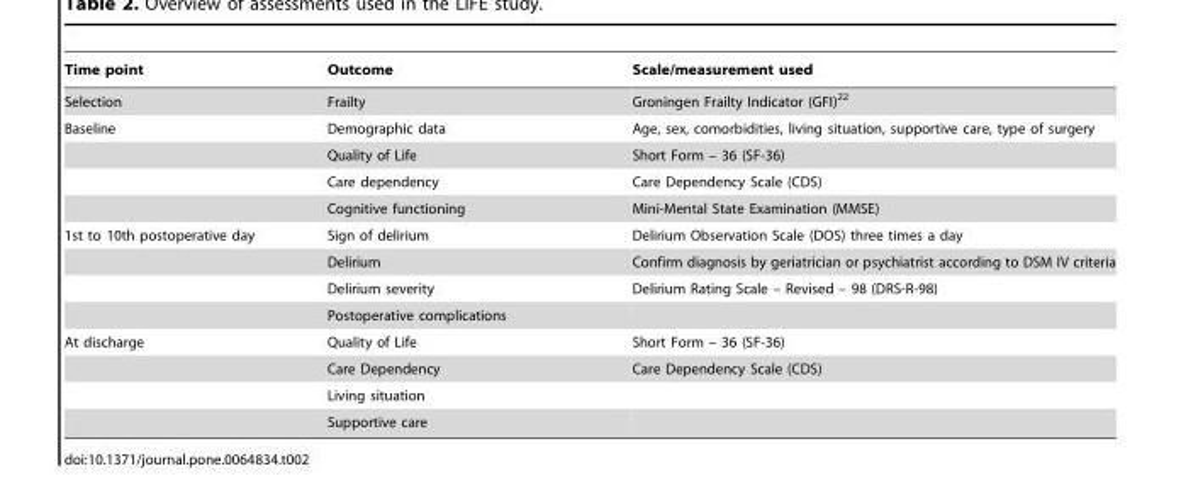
<table><thead><tr><td>Time point</td><td>Outcome</td><td>Scale/measurement used</td></tr></thead><tbody><tr><td>Selection</td><td>Frailty</td><td>Groningen Frailty Indicator (GFI)<sup>22</sup></td></tr><tr><td rowspan="4">Baseline</td><td>Demographic data</td><td>Age, sex, comorbidities, living situation, supportive care, type of surgery</td></tr><tr><td>Quality of Life</td><td>Short Form – 36 (SF-36)</td></tr><tr><td>Care dependency</td><td>Care Dependency Scale (CDS)</td></tr><tr><td>Cognitive functioning</td><td>Mini-Mental State Examination (MMSE)</td></tr><tr><td rowspan="4">1st to 10th postoperative day</td><td>Sign of delirium</td><td>Delirium Observation Scale (DOS) three times a day</td></tr><tr><td>Delirium</td><td>Confirm diagnosis by geriatrician or psychiatrist according to DSM IV criteria</td></tr><tr><td>Delirium severity</td><td>Delirium Rating Scale – Revised – 98 (DRS-R-98)</td></tr><tr><td>Postoperative complications</td><td></td></tr><tr><td rowspan="4">At discharge</td><td>Quality of Life</td><td>Short Form – 36 (SF-36)</td></tr><tr><td>Care Dependency</td><td>Care Dependency Scale (CDS)</td></tr><tr><td>Living situation</td><td></td></tr><tr><td>Supportive care</td><td></td></tr></tbody></table>